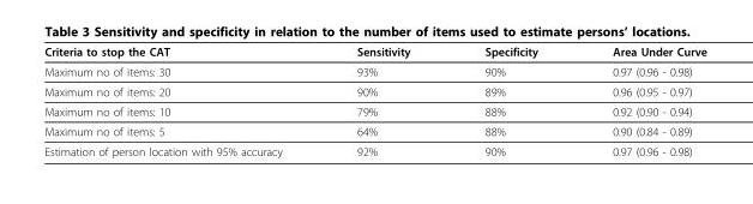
<table><thead><tr><td>Criteria to stop the CAT</td><td>Sensitivity</td><td>Specificity</td><td>Area Under Curve</td></tr></thead><tbody><tr><td>Maximum no of items: 30</td><td>93%</td><td>90%</td><td>0.97 (0.96 - 0.98)</td></tr><tr><td>Maximum no of items: 20</td><td>90%</td><td>89%</td><td>0.96 (0.95 - 0.97)</td></tr><tr><td>Maximum no of items: 10</td><td>79%</td><td>88%</td><td>0.92 (0.90 - 0.94)</td></tr><tr><td>Maximum no of items: 5</td><td>64%</td><td>88%</td><td>0.90 (0.84 - 0.89)</td></tr><tr><td>Estimation of person location with 95% accuracy</td><td>92%</td><td>90%</td><td>0.97 (0.96 - 0.98)</td></tr></tbody></table>